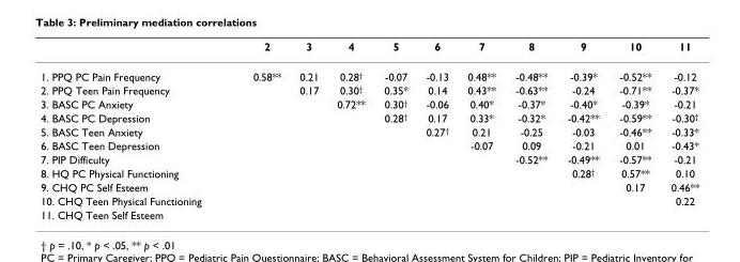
<table><thead><tr><td></td><td>2</td><td>3</td><td>4</td><td>5</td><td>6</td><td>7</td><td>8</td><td>9</td><td>10</td><td>11</td></tr></thead><tbody><tr><td>1. PPQ PC Pain Frequency</td><td>0.58**</td><td>0.21</td><td>0.28<sup>†</sup></td><td>-0.07</td><td>-0.13</td><td>0.48**</td><td>-0.48**</td><td>-0.39*</td><td>-0.52**</td><td>-0.12</td></tr><tr><td>2. PPQ Teen Pain Frequency</td><td></td><td>0.17</td><td>0.30<sup>†</sup></td><td>0.35*</td><td>0.14</td><td>0.43**</td><td>-0.63**</td><td>-0.24</td><td>-0.71**</td><td>-0.37*</td></tr><tr><td>3. BASC PC Anxiety</td><td></td><td></td><td>0.72**</td><td>0.30<sup>†</sup></td><td>-0.06</td><td>0.40*</td><td>-0.37*</td><td>-0.40*</td><td>-0.39*</td><td>-0.21</td></tr><tr><td>4. BASC PC Depression</td><td></td><td></td><td></td><td>0.28<sup>†</sup></td><td>0.17</td><td>0.33*</td><td>-0.32*</td><td>-0.42**</td><td>-0.59**</td><td>-0.30<sup>†</sup></td></tr><tr><td>5. BASC Teen Anxiety</td><td></td><td></td><td></td><td></td><td>0.27<sup>†</sup></td><td>0.21</td><td>-0.25</td><td>-0.03</td><td>-0.46**</td><td>-0.33*</td></tr><tr><td>6. BASC Teen Depression</td><td></td><td></td><td></td><td></td><td></td><td>-0.07</td><td>0.09</td><td>-0.21</td><td>0.01</td><td>-0.43*</td></tr><tr><td>7. PIP Difficulty</td><td></td><td></td><td></td><td></td><td></td><td></td><td>-0.52**</td><td>-0.49**</td><td>-0.57**</td><td>-0.21</td></tr><tr><td>8. HQ PC Physical Functioning</td><td></td><td></td><td></td><td></td><td></td><td></td><td></td><td>0.28<sup>†</sup></td><td>0.57**</td><td>0.10</td></tr><tr><td>9. CHQ PC Self Esteem</td><td></td><td></td><td></td><td></td><td></td><td></td><td></td><td></td><td>0.17</td><td>0.46**</td></tr><tr><td>10. CHQ Teen Physical Functioning</td><td></td><td></td><td></td><td></td><td></td><td></td><td></td><td></td><td></td><td>0.22</td></tr><tr><td>11. CHQ Teen Self Esteem</td><td></td><td></td><td></td><td></td><td></td><td></td><td></td><td></td><td></td><td></td></tr></tbody></table>